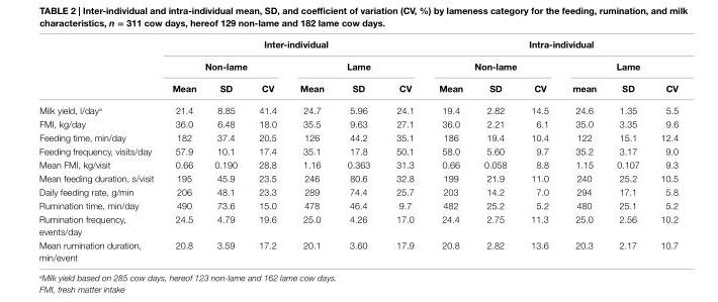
<table><thead><tr><td rowspan="3"></td><td colspan="6">inter-individual</td><td colspan="6">intra-individual</td></tr><tr><td colspan="3">non-lame</td><td colspan="3">lame</td><td colspan="3">non-lame</td><td colspan="3">lame</td></tr><tr><td>Mean</td><td>sD</td><td>cV</td><td>Mean</td><td>sD</td><td>cV</td><td>Mean</td><td>sD</td><td>cV</td><td>mean</td><td>sD</td><td>cV</td></tr></thead><tbody><tr><td>Milk yield, l/day<sup>a</sup></td><td>21.4</td><td>8.85</td><td>41.4</td><td>24.7</td><td>5.96</td><td>24.1</td><td>19.4</td><td>2.82</td><td>14.5</td><td>24.6</td><td>1.35</td><td>5.5</td></tr><tr><td>FMI, kg/day</td><td>36.0</td><td>6.48</td><td>18.0</td><td>35.5</td><td>9.63</td><td>27.1</td><td>36.0</td><td>2.21</td><td>6.1</td><td>35.0</td><td>3.35</td><td>9.6</td></tr><tr><td>Feeding time, min/day</td><td>182</td><td>37.4</td><td>20.5</td><td>126</td><td>44.2</td><td>35.1</td><td>186</td><td>19.4</td><td>10.4</td><td>122</td><td>15.1</td><td>12.4</td></tr><tr><td>Feeding frequency, visits/day</td><td>57.9</td><td>10.1</td><td>17.4</td><td>35.1</td><td>17.8</td><td>50.1</td><td>58.0</td><td>5.60</td><td>9.7</td><td>35.2</td><td>3.17</td><td>9.0</td></tr><tr><td>Mean FMI, kg/visit</td><td>0.66</td><td>0.190</td><td>28.8</td><td>1.16</td><td>0.363</td><td>31.3</td><td>0.66</td><td>0.058</td><td>8.8</td><td>1.15</td><td>0.107</td><td>9.3</td></tr><tr><td>Mean feeding duration, s/visit</td><td>195</td><td>45.9</td><td>23.5</td><td>246</td><td>80.6</td><td>32.8</td><td>199</td><td>21.9</td><td>11.0</td><td>240</td><td>25.2</td><td>10.5</td></tr><tr><td>Daily feeding rate, g/min</td><td>206</td><td>48.1</td><td>23.3</td><td>289</td><td>74.4</td><td>25.7</td><td>203</td><td>14.2</td><td>7.0</td><td>294</td><td>17.1</td><td>5.8</td></tr><tr><td>Rumination time, min/day</td><td>490</td><td>73.6</td><td>15.0</td><td>478</td><td>46.4</td><td>9.7</td><td>482</td><td>25.2</td><td>5.2</td><td>480</td><td>25.1</td><td>5.2</td></tr><tr><td>Rumination frequency, events/day</td><td>24.5</td><td>4.79</td><td>19.6</td><td>25.0</td><td>4.26</td><td>17.0</td><td>24.4</td><td>2.75</td><td>11.3</td><td>25.0</td><td>2.56</td><td>10.2</td></tr><tr><td>Mean rumination duration, min/event</td><td>20.8</td><td>3.59</td><td>17.2</td><td>20.1</td><td>3.60</td><td>17.9</td><td>20.8</td><td>2.82</td><td>13.6</td><td>20.3</td><td>2.17</td><td>10.7</td></tr></tbody></table>